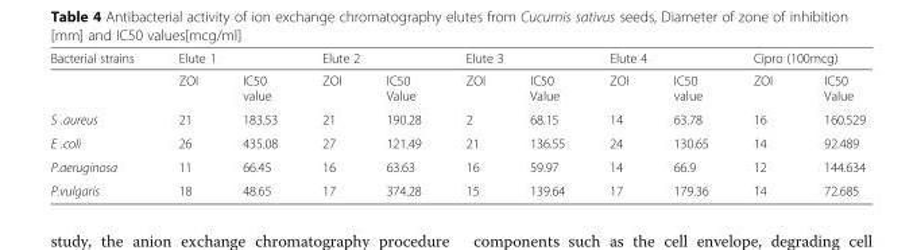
<table><thead><tr><td rowspan="2">Bacterial strains</td><td colspan="2">Elute 1</td><td colspan="2">Elute 2</td><td colspan="2">Elute 3</td><td colspan="2">Elute 4</td><td colspan="2">Cipro (100mcg)</td></tr><tr><td>ZOI</td><td>IC50 value</td><td>ZOI</td><td>IC50 Value</td><td>ZOI</td><td>IC50 Value</td><td>ZOI</td><td>IC50 value</td><td>ZOI</td><td>IC50 Value</td></tr></thead><tbody><tr><td>S .aureus</td><td>21</td><td>183.53</td><td>21</td><td>190.28</td><td>2</td><td>68.15</td><td>14</td><td>63.78</td><td>16</td><td>160.529</td></tr><tr><td>E .coli</td><td>26</td><td>435.08</td><td>27</td><td>121.49</td><td>21</td><td>136.55</td><td>24</td><td>130.65</td><td>14</td><td>92.489</td></tr><tr><td>P.aeruginosa</td><td>11</td><td>66.45</td><td>16</td><td>63.63</td><td>16</td><td>59.97</td><td>14</td><td>66.9</td><td>12</td><td>144.634</td></tr><tr><td>P.vulgaris</td><td>18</td><td>48.65</td><td>17</td><td>374.28</td><td>15</td><td>139.64</td><td>17</td><td>179.36</td><td>14</td><td>72.685</td></tr></tbody></table>